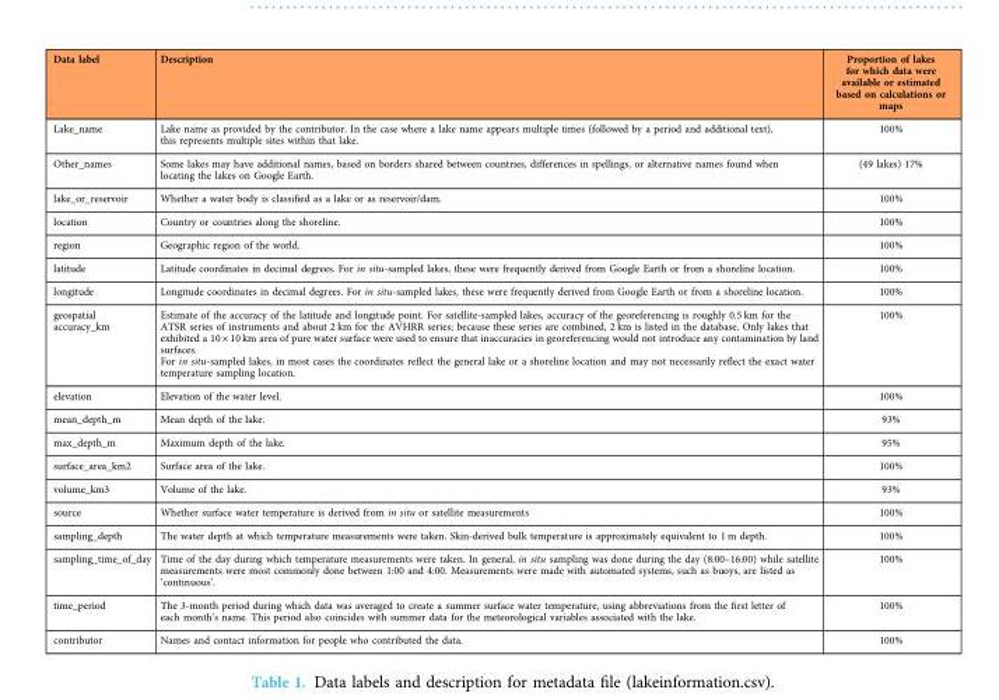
<table><thead><tr><td>Data label</td><td>Description</td><td>Proportion of lakes for which data were available or estimated based on calculations or maps</td></tr></thead><tbody><tr><td>Lake_name</td><td>Lake name as provided by the contributor. In the case where a lake name appears multiple times (followed by a period and additional text), this represents multiple sites within that lake.</td><td>100%</td></tr><tr><td>Other_names</td><td>Some lakes may have additional names, based on borders shared between countries, differences in spellings, or alternative names found when locating the lakes on Google Earth.</td><td>(49 lakes) 17%</td></tr><tr><td>lake_or_reservoir</td><td>Whether a water body is classified as a lake or as reservoir/dam.</td><td>100%</td></tr><tr><td>location</td><td>Country or countries along the shoreline.</td><td>100%</td></tr><tr><td>region</td><td>Geographic region of the world.</td><td>100%</td></tr><tr><td>latitude</td><td>Latitude coordinates in decimal degrees. For in situ-sampled lakes, these were frequently derived from Google Earth or from a shoreline location.</td><td>100%</td></tr><tr><td>longitude</td><td>Longitude coordinates in decimal degrees. For in situ-sampled lakes, these were frequently derived from Google Earth or from a shoreline location.</td><td>100%</td></tr><tr><td>geospatial accuracy_km</td><td>Estimate of the accuracy of the latitude and longitude point. For satellite-sampled lakes, accuracy of the georeferencing is roughly 0.5 km for the ATSR series of instruments and about 2 km for the AVHRR series; because these series are combined, 2 km is listed in the database. Only lakes that exhibited a 10 × 10 km area of pure water surface were used to ensure that inaccuracies in georeferencing would not introduce any contamination by land surfaces. For in situ-sampled lakes, in most cases the coordinates reflect the general lake or a shoreline location and may not necessarily reflect the exact water temperature sampling location.</td><td>100%</td></tr><tr><td>elevation</td><td>Elevation of the water level.</td><td>100%</td></tr><tr><td>mean_depth_m</td><td>Mean depth of the lake.</td><td>93%</td></tr><tr><td>max_depth_m</td><td>Maximum depth of the lake.</td><td>95%</td></tr><tr><td>surface_area_km2</td><td>Surface area of the lake.</td><td>100%</td></tr><tr><td>volume_km3</td><td>Volume of the lake.</td><td>93%</td></tr><tr><td>source</td><td>Whether surface water temperature is derived from in situ or satellite measurements</td><td>100%</td></tr><tr><td>sampling_depth</td><td>The water depth at which temperature measurements were taken. Skin-derived bulk temperature is approximately equivalent to 1 m depth.</td><td>100%</td></tr><tr><td>sampling_time_of_day</td><td>Time of the day during which temperature measurements were taken. In general, in situ sampling was done during the day (8:00–16:00) while satellite measurements were most commonly done between 1:00 and 4:00. Measurements were made with automated systems, such as buoys, are listed as ‘continuous’.</td><td>100%</td></tr><tr><td>time_period</td><td>The 3-month period during which data was averaged to create a summer surface water temperature, using abbreviations from the first letter of each month’s name. This period also coincides with summer data for the meteorological variables associated with the lake.</td><td>100%</td></tr><tr><td>contributor</td><td>Names and contact information for people who contributed the data.</td><td>100%</td></tr></tbody></table>